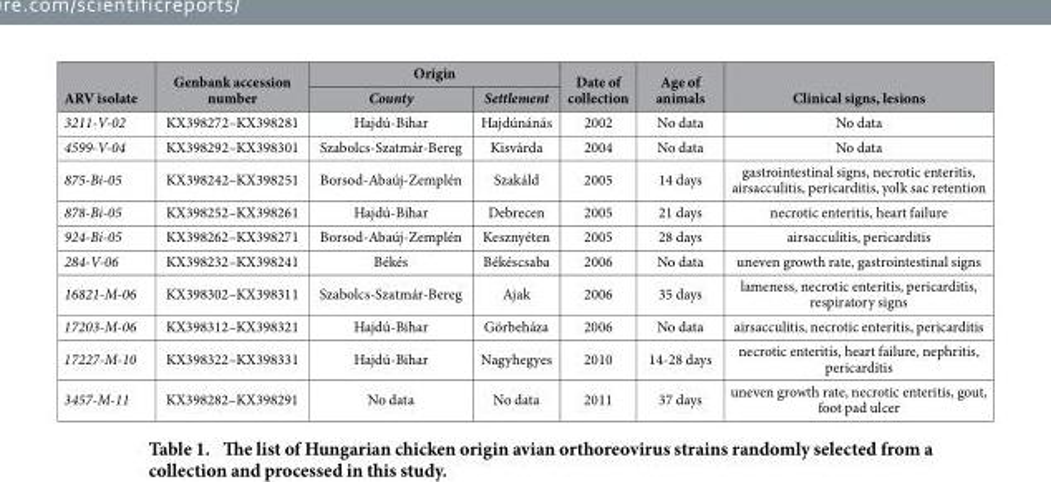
<table><thead><tr><td rowspan="2">ARV isolate</td><td rowspan="2">Genbank accession number</td><td colspan="2">Origin</td><td rowspan="2">Date of collection</td><td rowspan="2">Age of animals</td><td rowspan="2">Clinical signs, lesions</td></tr><tr><td>County</td><td>Settlement</td></tr></thead><tbody><tr><td>3211-V-02</td><td>KX398272–KX398281</td><td>Hajdú-Bihar</td><td>Hajdúnánás</td><td>2002</td><td>No data</td><td>No data</td></tr><tr><td>4599-V-04</td><td>KX398292–KX398301</td><td>Szabolcs-Szatmár-Bereg</td><td>Kisvárda</td><td>2004</td><td>No data</td><td>No data</td></tr><tr><td>875-Bi-05</td><td>KX398242–KX398251</td><td>Borsod-Abaúj-Zemplén</td><td>Szakáld</td><td>2005</td><td>14 days</td><td>gastrointestinal signs, necrotic enteritis, airsacculitis, pericarditis, yolk sac retention</td></tr><tr><td>878-Bi-05</td><td>KX398252–KX398261</td><td>Hajdú-Bihar</td><td>Debrecen</td><td>2005</td><td>21 days</td><td>necrotic enteritis, heart failure</td></tr><tr><td>924-Bi-05</td><td>KX398262–KX398271</td><td>Borsod-Abaúj-Zemplén</td><td>Kesznyéten</td><td>2005</td><td>28 days</td><td>airsacculitis, pericarditis</td></tr><tr><td>284-V-06</td><td>KX398232–KX398241</td><td>Békés</td><td>Békéscsaba</td><td>2006</td><td>No data</td><td>uneven growth rate, gastrointestinal signs</td></tr><tr><td>16821-M-06</td><td>KX398302–KX398311</td><td>Szabolcs-Szatmár-Bereg</td><td>Ajak</td><td>2006</td><td>35 days</td><td>lameness, necrotic enteritis, pericarditis, respiratory signs</td></tr><tr><td>17203-M-06</td><td>KX398312–KX398321</td><td>Hajdú-Bihar</td><td>Görbeháza</td><td>2006</td><td>No data</td><td>airsacculitis, necrotic enteritis, pericarditis</td></tr><tr><td>17227-M-10</td><td>KX398322–KX398331</td><td>Hajdú-Bihar</td><td>Nagyhegyes</td><td>2010</td><td>14-28 days</td><td>necrotic enteritis, heart failure, nephritis, pericarditis</td></tr><tr><td>3457-M-11</td><td>KX398282–KX398291</td><td>No data</td><td>No data</td><td>2011</td><td>37 days</td><td>uneven growth rate, necrotic enteritis, gout, foot pad ulcer</td></tr></tbody></table>